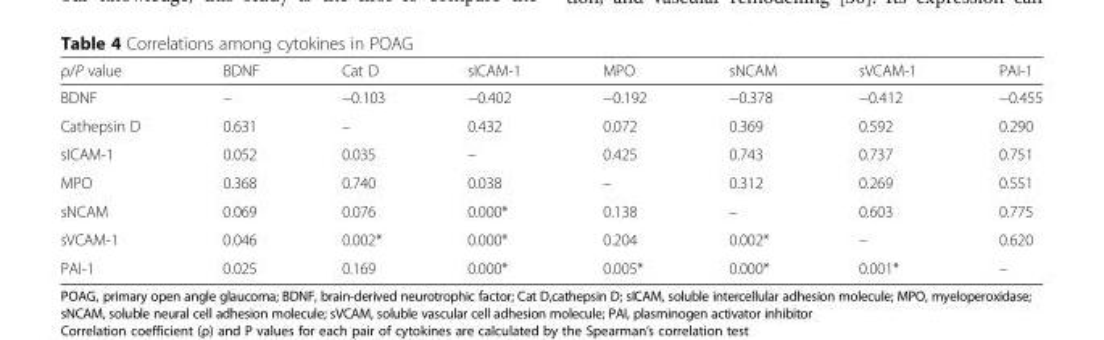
<table><thead><tr><td>ρ/P value</td><td>BDNF</td><td>Cat D</td><td>sICAM-1</td><td>MPO</td><td>sNCAM</td><td>sVCAM-1</td><td>PAI-1</td></tr></thead><tbody><tr><td>BDNF</td><td>–</td><td>−0.103</td><td>−0.402</td><td>−0.192</td><td>−0.378</td><td>−0.412</td><td>−0.455</td></tr><tr><td>Cathepsin D</td><td>0.631</td><td>–</td><td>0.432</td><td>0.072</td><td>0.369</td><td>0.592</td><td>0.290</td></tr><tr><td>sICAM-1</td><td>0.052</td><td>0.035</td><td>–</td><td>0.425</td><td>0.743</td><td>0.737</td><td>0.751</td></tr><tr><td>MPO</td><td>0.368</td><td>0.740</td><td>0.038</td><td>–</td><td>0.312</td><td>0.269</td><td>0.551</td></tr><tr><td>sNCAM</td><td>0.069</td><td>0.076</td><td>0.000*</td><td>0.138</td><td>–</td><td>0.603</td><td>0.775</td></tr><tr><td>sVCAM-1</td><td>0.046</td><td>0.002*</td><td>0.000*</td><td>0.204</td><td>0.002*</td><td>–</td><td>0.620</td></tr><tr><td>PAI-1</td><td>0.025</td><td>0.169</td><td>0.000*</td><td>0.005*</td><td>0.000*</td><td>0.001*</td><td>–</td></tr></tbody></table>